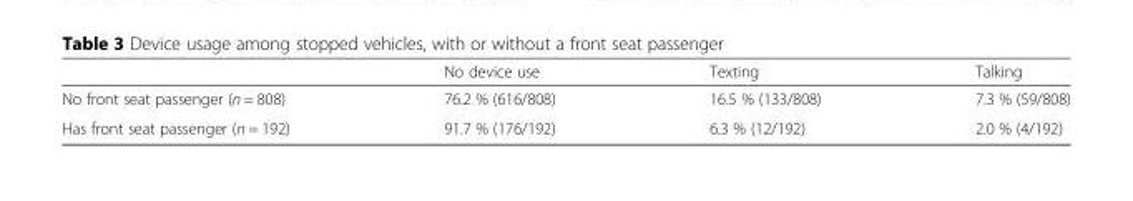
<table><thead><tr><td></td><td>No device use</td><td>Texting</td><td>Talking</td></tr></thead><tbody><tr><td>No front seat passenger (n = 808)</td><td>76.2 % (616/808)</td><td>16.5 % (133/808)</td><td>7.3 % (59/808)</td></tr><tr><td>Has front seat passenger (n = 192)</td><td>91.7 % (176/192)</td><td>6.3 % (12/192)</td><td>2.0 % (4/192)</td></tr></tbody></table>